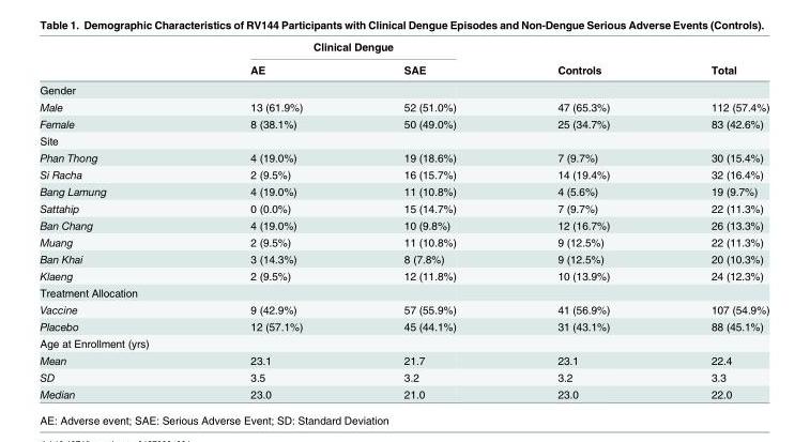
<table><thead><tr><td rowspan="2"></td><td colspan="2">Clinical Dengue</td><td rowspan="2">Controls</td><td rowspan="2">Total</td></tr><tr><td>AE</td><td>SAE</td></tr></thead><tbody><tr><td colspan="5">Gender</td></tr><tr><td>Male</td><td>13 (61.9%)</td><td>52 (51.0%)</td><td>47 (65.3%)</td><td>112 (57.4%)</td></tr><tr><td>Female</td><td>8 (38.1%)</td><td>50 (49.0%)</td><td>25 (34.7%)</td><td>83 (42.6%)</td></tr><tr><td colspan="5">Site</td></tr><tr><td>Phan Thong</td><td>4 (19.0%)</td><td>19 (18.6%)</td><td>7 (9.7%)</td><td>30 (15.4%)</td></tr><tr><td>Si Racha</td><td>2 (9.5%)</td><td>16 (15.7%)</td><td>14 (19.4%)</td><td>32 (16.4%)</td></tr><tr><td>Bang Lamung</td><td>4 (19.0%)</td><td>11 (10.8%)</td><td>4 (5.6%)</td><td>19 (9.7%)</td></tr><tr><td>Sattahip</td><td>0 (0.0%)</td><td>15 (14.7%)</td><td>7 (9.7%)</td><td>22 (11.3%)</td></tr><tr><td>Ban Chang</td><td>4 (19.0%)</td><td>10 (9.8%)</td><td>12 (16.7%)</td><td>26 (13.3%)</td></tr><tr><td>Muang</td><td>2 (9.5%)</td><td>11 (10.8%)</td><td>9 (12.5%)</td><td>22 (11.3%)</td></tr><tr><td>Ban Khai</td><td>3 (14.3%)</td><td>8 (7.8%)</td><td>9 (12.5%)</td><td>20 (10.3%)</td></tr><tr><td>Klaeng</td><td>2 (9.5%)</td><td>12 (11.8%)</td><td>10 (13.9%)</td><td>24 (12.3%)</td></tr><tr><td colspan="5">Treatment Allocation</td></tr><tr><td>Vaccine</td><td>9 (42.9%)</td><td>57 (55.9%)</td><td>41 (56.9%)</td><td>107 (54.9%)</td></tr><tr><td>Placebo</td><td>12 (57.1%)</td><td>45 (44.1%)</td><td>31 (43.1%)</td><td>88 (45.1%)</td></tr><tr><td colspan="5">Age at Enrollment (yrs)</td></tr><tr><td>Mean</td><td>23.1</td><td>21.7</td><td>23.1</td><td>22.4</td></tr><tr><td>SD</td><td>3.5</td><td>3.2</td><td>3.2</td><td>3.3</td></tr><tr><td>Median</td><td>23.0</td><td>21.0</td><td>23.0</td><td>22.0</td></tr></tbody></table>